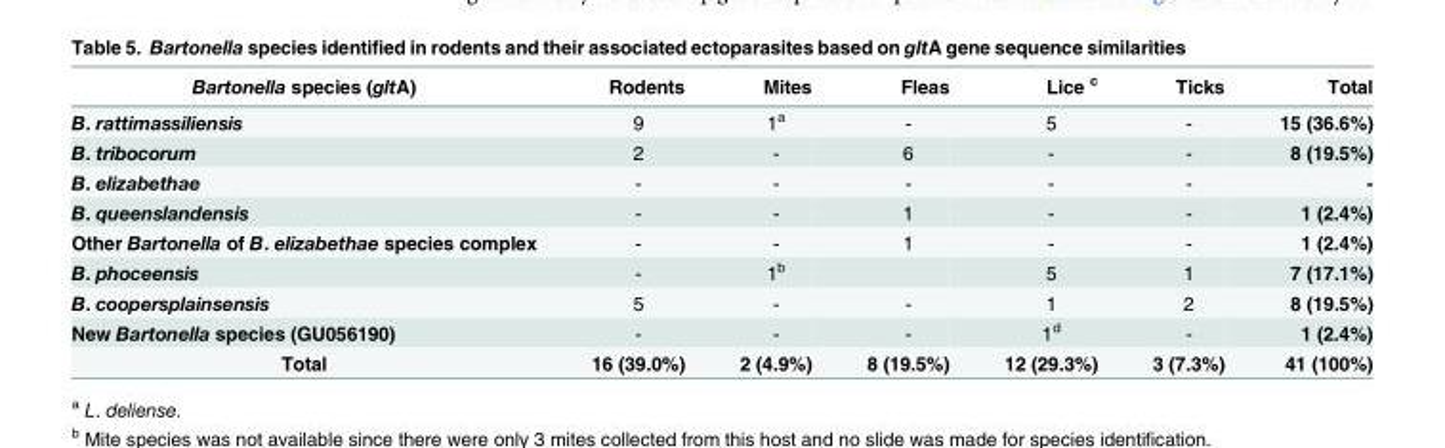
<table><thead><tr><td>Bartonella species (gltA)</td><td>Rodents</td><td>Mites</td><td>Fleas</td><td>Lice <sup>c</sup></td><td>Ticks</td><td>Total</td></tr></thead><tbody><tr><td>B. rattimassiliensis</td><td>9</td><td>1<sup>a</sup></td><td>-</td><td>5</td><td>-</td><td>15 (36.6%)</td></tr><tr><td>B. tribocorum</td><td>2</td><td>-</td><td>6</td><td>-</td><td>-</td><td>8 (19.5%)</td></tr><tr><td>B. elizabethae</td><td>-</td><td>-</td><td>-</td><td>-</td><td>-</td><td>-</td></tr><tr><td>B. queenslandensis</td><td>-</td><td>-</td><td>1</td><td>-</td><td>-</td><td>1 (2.4%)</td></tr><tr><td>Other Bartonella of B. elizabethae species complex</td><td>-</td><td>-</td><td>1</td><td>-</td><td>-</td><td>1 (2.4%)</td></tr><tr><td>B. phoceensis</td><td>-</td><td>1<sup>b</sup></td><td></td><td>5</td><td>1</td><td>7 (17.1%)</td></tr><tr><td>B. coopersplainsensis</td><td>5</td><td>-</td><td>-</td><td>1</td><td>2</td><td>8 (19.5%)</td></tr><tr><td>New Bartonella species (GU056190)</td><td>-</td><td>-</td><td>-</td><td>1<sup>d</sup></td><td>-</td><td>1 (2.4%)</td></tr><tr><td>Total</td><td>16 (39.0%)</td><td>2 (4.9%)</td><td>8 (19.5%)</td><td>12 (29.3%)</td><td>3 (7.3%)</td><td>41 (100%)</td></tr></tbody></table>